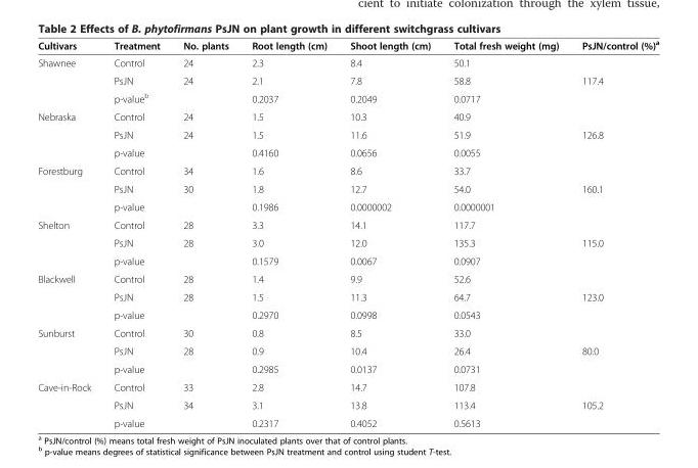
<table><thead><tr><td>Cultivars</td><td>Treatment</td><td>No. plants</td><td>Root length (cm)</td><td>Shoot length (cm)</td><td>Total fresh weight (mg)</td><td>PsJN/control (%)<sup>a</sup></td></tr></thead><tbody><tr><td rowspan="3">Shawnee</td><td>Control</td><td>24</td><td>2.3</td><td>8.4</td><td>50.1</td><td></td></tr><tr><td>PsJN</td><td>24</td><td>2.1</td><td>7.8</td><td>58.8</td><td>117.4</td></tr><tr><td>p-value<sup>b</sup></td><td></td><td>0.2037</td><td>0.2049</td><td>0.0717</td><td></td></tr><tr><td rowspan="3">Nebraska</td><td>Control</td><td>24</td><td>1.5</td><td>10.3</td><td>40.9</td><td></td></tr><tr><td>PsJN</td><td>24</td><td>1.5</td><td>11.6</td><td>51.9</td><td>126.8</td></tr><tr><td>p-value</td><td></td><td>0.4160</td><td>0.0656</td><td>0.0055</td><td></td></tr><tr><td rowspan="3">Forestburg</td><td>Control</td><td>34</td><td>1.6</td><td>8.6</td><td>33.7</td><td></td></tr><tr><td>PsJN</td><td>30</td><td>1.8</td><td>12.7</td><td>54.0</td><td>160.1</td></tr><tr><td>p-value</td><td></td><td>0.1986</td><td>0.0000002</td><td>0.0000001</td><td></td></tr><tr><td rowspan="3">Shelton</td><td>Control</td><td>28</td><td>3.3</td><td>14.1</td><td>117.7</td><td></td></tr><tr><td>PsJN</td><td>28</td><td>3.0</td><td>12.0</td><td>135.3</td><td>115.0</td></tr><tr><td>p-value</td><td></td><td>0.1579</td><td>0.0067</td><td>0.0907</td><td></td></tr><tr><td rowspan="3">Blackwell</td><td>Control</td><td>28</td><td>1.4</td><td>9.9</td><td>52.6</td><td></td></tr><tr><td>PsJN</td><td>28</td><td>1.5</td><td>11.3</td><td>64.7</td><td>123.0</td></tr><tr><td>p-value</td><td></td><td>0.2970</td><td>0.0998</td><td>0.0543</td><td></td></tr><tr><td rowspan="3">Sunburst</td><td>Control</td><td>30</td><td>0.8</td><td>8.5</td><td>33.0</td><td></td></tr><tr><td>PsJN</td><td>28</td><td>0.9</td><td>10.4</td><td>26.4</td><td>80.0</td></tr><tr><td>p-value</td><td></td><td>0.2985</td><td>0.0137</td><td>0.0731</td><td></td></tr><tr><td rowspan="3">Cave-in-Rock</td><td>Control</td><td>33</td><td>2.8</td><td>14.7</td><td>107.8</td><td></td></tr><tr><td>PsJN</td><td>34</td><td>3.1</td><td>13.8</td><td>113.4</td><td>105.2</td></tr><tr><td>p-value</td><td></td><td>0.2317</td><td>0.4052</td><td>0.5613</td><td></td></tr></tbody></table>